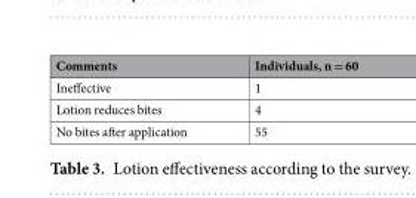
<table><thead><tr><td>Comments</td><td>Individuals, n = 60</td></tr></thead><tbody><tr><td>Ineffective</td><td>1</td></tr><tr><td>Lotion reduces bites</td><td>4</td></tr><tr><td>No bites after application</td><td>55</td></tr></tbody></table>